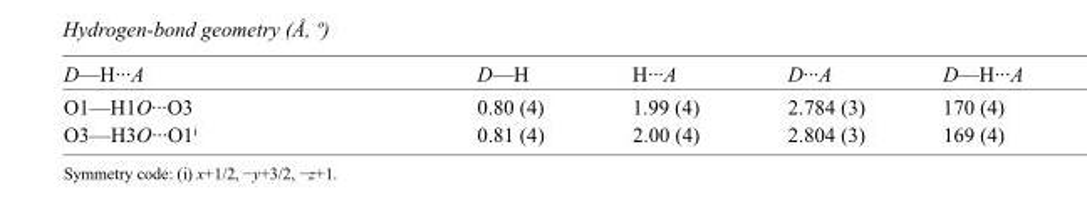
<table><tbody><tr><td>D—H···A</td><td>D—H</td><td>H···A</td><td>D···A</td><td>D—H···A</td></tr><tr><td>O1—H1O···O3</td><td>0.80 (4)</td><td>1.99 (4)</td><td>2.784 (3)</td><td>170 (4)</td></tr><tr><td>O3—H3O···O1<sup>i</sup></td><td>0.81 (4)</td><td>2.00 (4)</td><td>2.804 (3)</td><td>169 (4)</td></tr></tbody></table>